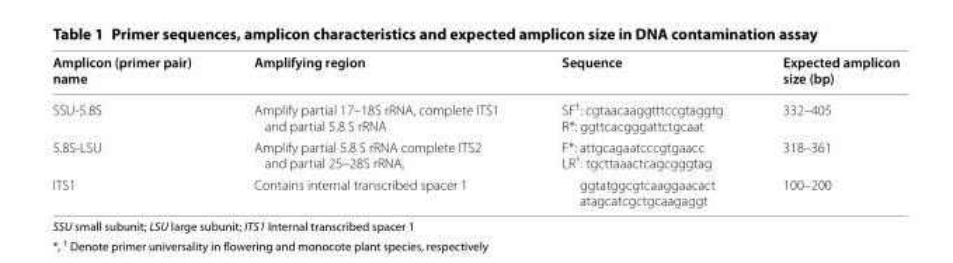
<table><thead><tr><td>Amplicon (primer pair) name</td><td>Amplifying region</td><td>Sequence</td><td>Expected amplicon size (bp)</td></tr></thead><tbody><tr><td>SSU-5.8S</td><td>Amplify partial 17–18S rRNA, complete ITS1 and partial 5.8 S rRNA</td><td>SF<sup>†</sup>: cgtaacaaggtttccgtaggtg R*: ggttcacgggattctgcaat</td><td>332–405</td></tr><tr><td>5.8S-LSU</td><td>Amplify partial 5.8 S rRNA complete ITS2 and partial 25–28S rRNA,</td><td>F*: attgcagaatcccgtgaacc LR<sup>†</sup>: tgcttaaactcagcgggtag</td><td>318–361</td></tr><tr><td>ITS1</td><td>Contains internal transcribed spacer 1</td><td>ggtatggcgtcaaggaacact atagcatcgctgcaagaggt</td><td>100–200</td></tr></tbody></table>